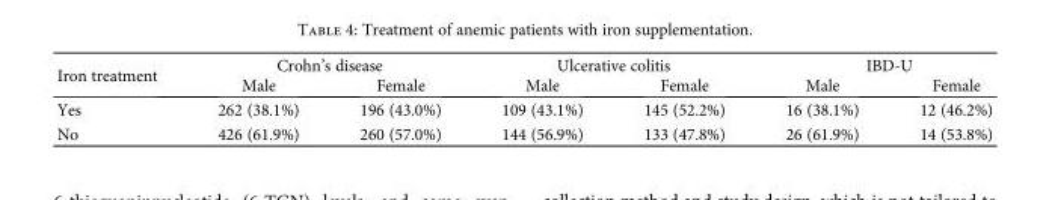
<table><thead><tr><td rowspan="2">Iron treatment</td><td colspan="2">Crohn’s disease</td><td colspan="2">Ulcerative colitis</td><td colspan="2">IBD-U</td></tr><tr><td>Male</td><td>Female</td><td>Male</td><td>Female</td><td>Male</td><td>Female</td></tr></thead><tbody><tr><td>Yes</td><td>262 (38.1%)</td><td>196 (43.0%)</td><td>109 (43.1%)</td><td>145 (52.2%)</td><td>16 (38.1%)</td><td>12 (46.2%)</td></tr><tr><td>No</td><td>426 (61.9%)</td><td>260 (57.0%)</td><td>144 (56.9%)</td><td>133 (47.8%)</td><td>26 (61.9%)</td><td>14 (53.8%)</td></tr></tbody></table>